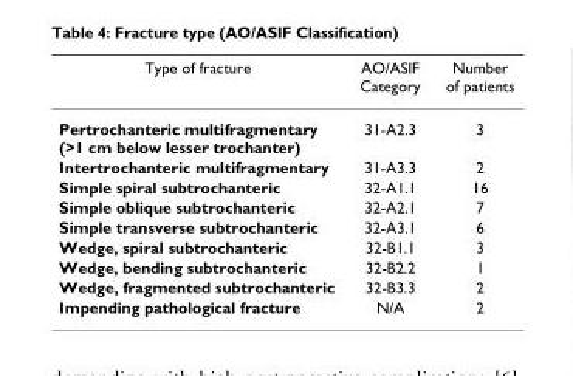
<table><thead><tr><td>Type of fracture</td><td>AO/ASIF Category</td><td>Number of patients</td></tr></thead><tbody><tr><td>Pertrochanteric multifragmentary (&gt;1 cm below lesser trochanter)</td><td>31-A2.3</td><td>3</td></tr><tr><td>Intertrochanteric multifragmentary</td><td>31-A3.3</td><td>2</td></tr><tr><td>Simple spiral subtrochanteric</td><td>32-A1.1</td><td>16</td></tr><tr><td>Simple oblique subtrochanteric</td><td>32-A2.1</td><td>7</td></tr><tr><td>Simple transverse subtrochanteric</td><td>32-A3.1</td><td>6</td></tr><tr><td>Wedge, spiral subtrochanteric</td><td>32-B1.1</td><td>3</td></tr><tr><td>Wedge, bending subtrochanteric</td><td>32-B2.2</td><td>1</td></tr><tr><td>Wedge, fragmented subtrochanteric</td><td>32-B3.3</td><td>2</td></tr><tr><td>Impending pathological fracture</td><td>N/A</td><td>2</td></tr></tbody></table>